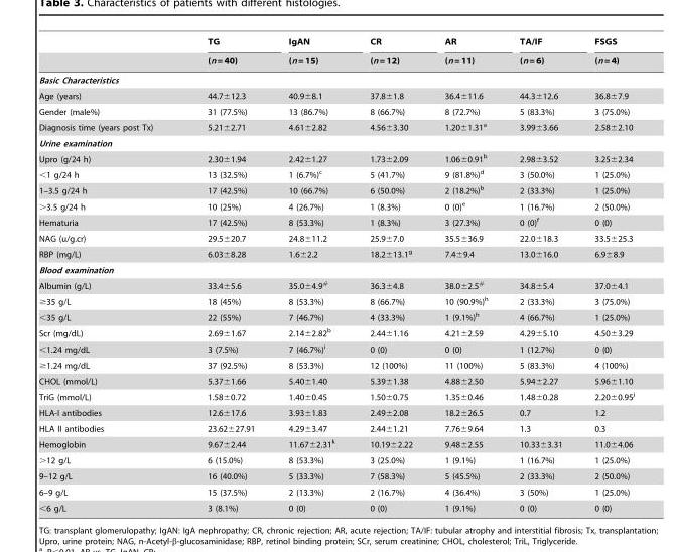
<table><thead><tr><td rowspan="2"></td><td rowspan="2">TG (n = 40)</td><td rowspan="2">IgAN (n = 15)</td><td rowspan="2">CR (n = 12)</td><td rowspan="2">AR (n = 11)</td><td rowspan="2">TA/IF (n = 6)</td><td rowspan="2">FSGS (n = 4)</td></tr><tr></tr></thead><tbody><tr><td colspan="7">Basic Characteristics</td></tr><tr><td>Age (years)</td><td>44.7±12.3</td><td>40.9±8.1</td><td>37.8±1.8</td><td>36.4±11.6</td><td>44.3±12.6</td><td>36.8±7.9</td></tr><tr><td>Gender (male%)</td><td>31 (77.5%)</td><td>13 (86.7%)</td><td>8 (66.7%)</td><td>8 (72.7%)</td><td>5 (83.3%)</td><td>3 (75.0%)</td></tr><tr><td>Diagnosis time (years post Tx)</td><td>5.21±2.71</td><td>4.61±2.82</td><td>4.56±3.30</td><td>1.20±1.31<sup>a</sup></td><td>3.99±3.66</td><td>2.58±2.10</td></tr><tr><td colspan="7">Urine examination</td></tr><tr><td>Upro (g/24 h)</td><td>2.30±1.94</td><td>2.42±1.27</td><td>1.73±2.09</td><td>1.06±0.91<sup>b</sup></td><td>2.98±3.52</td><td>3.25±2.34</td></tr><tr><td>&lt;1 g/24 h</td><td>13 (32.5%)</td><td>1 (6.7%)<sup>c</sup></td><td>5 (41.7%)</td><td>9 (81.8%)<sup>d</sup></td><td>3 (50.0%)</td><td>1 (25.0%)</td></tr><tr><td>1–3.5 g/24 h</td><td>17 (42.5%)</td><td>10 (66.7%)</td><td>6 (50.0%)</td><td>2 (18.2%)<sup>b</sup></td><td>2 (33.3%)</td><td>1 (25.0%)</td></tr><tr><td>&gt;3.5 g/24 h</td><td>10 (25%)</td><td>4 (26.7%)</td><td>1 (8.3%)</td><td>0 (0)<sup>e</sup></td><td>1 (16.7%)</td><td>2 (50.0%)</td></tr><tr><td>Hematuria</td><td>17 (42.5%)</td><td>8 (53.3%)</td><td>1 (8.3%)</td><td>3 (27.3%)</td><td>0 (0)<sup>f</sup></td><td>0 (0)</td></tr><tr><td>NAG (u/g.cr)</td><td>29.5±20.7</td><td>24.8±11.2</td><td>25.9±7.0</td><td>35.5±36.9</td><td>22.0±18.3</td><td>33.5±25.3</td></tr><tr><td>RBP (mg/L)</td><td>6.03±8.28</td><td>1.6±2.2</td><td>18.2±13.1<sup>g</sup></td><td>7.4±9.4</td><td>13.0±16.0</td><td>6.9±8.9</td></tr><tr><td colspan="7">Blood examination</td></tr><tr><td>Albumin (g/L)</td><td>33.4±5.6</td><td>35.0±4.9<sup>#</sup></td><td>36.3±4.8</td><td>38.0±2.5<sup>#</sup></td><td>34.8±5.4</td><td>37.0±4.1</td></tr><tr><td>≥35 g/L</td><td>18 (45%)</td><td>8 (53.3%)</td><td>8 (66.7%)</td><td>10 (90.9%)<sup>h</sup></td><td>2 (33.3%)</td><td>3 (75.0%)</td></tr><tr><td>&lt;35 g/L</td><td>22 (55%)</td><td>7 (46.7%)</td><td>4 (33.3%)</td><td>1 (9.1%)<sup>h</sup></td><td>4 (66.7%)</td><td>1 (25.0%)</td></tr><tr><td>Scr (mg/dL)</td><td>2.69±1.67</td><td>2.14±2.82<sup>b</sup></td><td>2.44±1.16</td><td>4.21±2.59</td><td>4.29±5.10</td><td>4.50±3.29</td></tr><tr><td>&lt;1.24 mg/dL</td><td>3 (7.5%)</td><td>7 (46.7%)<sup>i</sup></td><td>0 (0)</td><td>0 (0)</td><td>1 (12.7%)</td><td>0 (0)</td></tr><tr><td>≥1.24 mg/dL</td><td>37 (92.5%)</td><td>8 (53.3%)</td><td>12 (100%)</td><td>11 (100%)</td><td>5 (83.3%)</td><td>4 (100%)</td></tr><tr><td>CHOL (mmol/L)</td><td>5.37±1.66</td><td>5.40±1.40</td><td>5.39±1.38</td><td>4.88±2.50</td><td>5.94±2.27</td><td>5.96±1.10</td></tr><tr><td>TriG (mmol/L)</td><td>1.58±0.72</td><td>1.40±0.45</td><td>1.50±0.75</td><td>1.35±0.46</td><td>1.48±0.28</td><td>2.20±0.95<sup>j</sup></td></tr><tr><td>HLA-I antibodies</td><td>12.6±17.6</td><td>3.93±1.83</td><td>2.49±2.08</td><td>18.2±26.5</td><td>0.7</td><td>1.2</td></tr><tr><td>HLA II antibodies</td><td>23.62±27.91</td><td>4.29±3.47</td><td>2.44±1.21</td><td>7.76±9.64</td><td>1.3</td><td>0.3</td></tr><tr><td>Hemoglobin</td><td>9.67±2.44</td><td>11.67±2.31<sup>k</sup></td><td>10.19±2.22</td><td>9.48±2.55</td><td>10.33±3.31</td><td>11.0±4.06</td></tr><tr><td>&gt;12 g/L</td><td>6 (15.0%)</td><td>8 (53.3%)</td><td>3 (25.0%)</td><td>1 (9.1%)</td><td>1 (16.7%)</td><td>1 (25.0%)</td></tr><tr><td>9–12 g/L</td><td>16 (40.0%)</td><td>5 (33.3%)</td><td>7 (58.3%)</td><td>5 (45.5%)</td><td>2 (33.3%)</td><td>2 (50.0%)</td></tr><tr><td>6–9 g/L</td><td>15 (37.5%)</td><td>2 (13.3%)</td><td>2 (16.7%)</td><td>4 (36.4%)</td><td>3 (50%)</td><td>1 (25.0%)</td></tr><tr><td>&lt;6 g/L</td><td>3 (8.1%)</td><td>0 (0)</td><td>0 (0)</td><td>1 (9.1%)</td><td>0 (0)</td><td>0 (0)</td></tr></tbody></table>